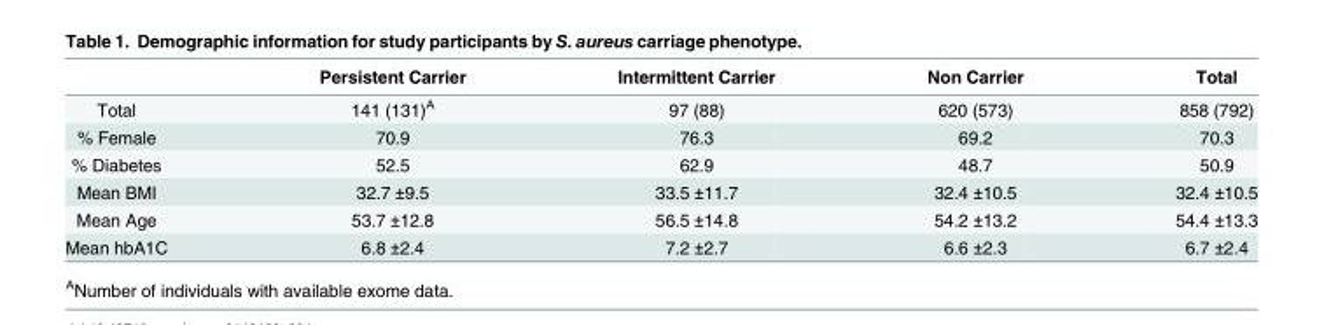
<table><thead><tr><td></td><td>Persistent Carrier</td><td>Intermittent Carrier</td><td>Non Carrier</td><td>Total</td></tr></thead><tbody><tr><td>Total</td><td>141 (131)<sup>A</sup></td><td>97 (88)</td><td>620 (573)</td><td>858 (792)</td></tr><tr><td>% Female</td><td>70.9</td><td>76.3</td><td>69.2</td><td>70.3</td></tr><tr><td>% Diabetes</td><td>52.5</td><td>62.9</td><td>48.7</td><td>50.9</td></tr><tr><td>Mean BMI</td><td>32.7 ±9.5</td><td>33.5 ±11.7</td><td>32.4 ±10.5</td><td>32.4 ±10.5</td></tr><tr><td>Mean Age</td><td>53.7 ±12.8</td><td>56.5 ±14.8</td><td>54.2 ±13.2</td><td>54.4 ±13.3</td></tr><tr><td>Mean hbA1C</td><td>6.8 ±2.4</td><td>7.2 ±2.7</td><td>6.6 ±2.3</td><td>6.7 ±2.4</td></tr></tbody></table>